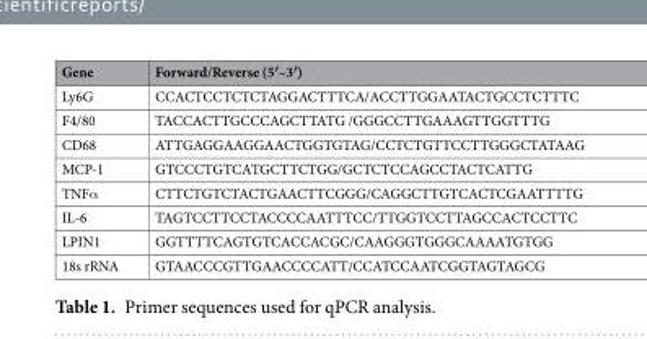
<table><thead><tr><td>Gene</td><td>Forward/Reverse (5′–3′)</td></tr></thead><tbody><tr><td>Ly6G</td><td>CCACTCCTCTCTAGGACTTTCA/ACCTTGGAATACTGCCTCTTTC</td></tr><tr><td>F4/80</td><td>TACCACTTGCCCAGCTTATG /GGGCCTTGAAAGTTGGTTTG</td></tr><tr><td>CD68</td><td>ATTGAGGAAGGAACTGGTGTAG/CCTCTGTTCCTTGGGCTATAAG</td></tr><tr><td>MCP-1</td><td>GTCCCTGTCATGCTTCTGG/GCTCTCCAGCCTACTCATTG</td></tr><tr><td>TNFα</td><td>CTTCTGTCTACTGAACTTCGGG/CAGGCTTGTCACTCGAATTTTG</td></tr><tr><td>IL-6</td><td>TAGTCCTTCCTACCCCAATTTCC/TTGGTCCTTAGCCACTCCTTC</td></tr><tr><td>LPIN1</td><td>GGTTTTCAGTGTCACCACGC/CAAGGGTGGGCAAAATGTGG</td></tr><tr><td>18s rRNA</td><td>GTAACCCGTTGAACCCCATT/CCATCCAATCGGTAGTAGCG</td></tr></tbody></table>